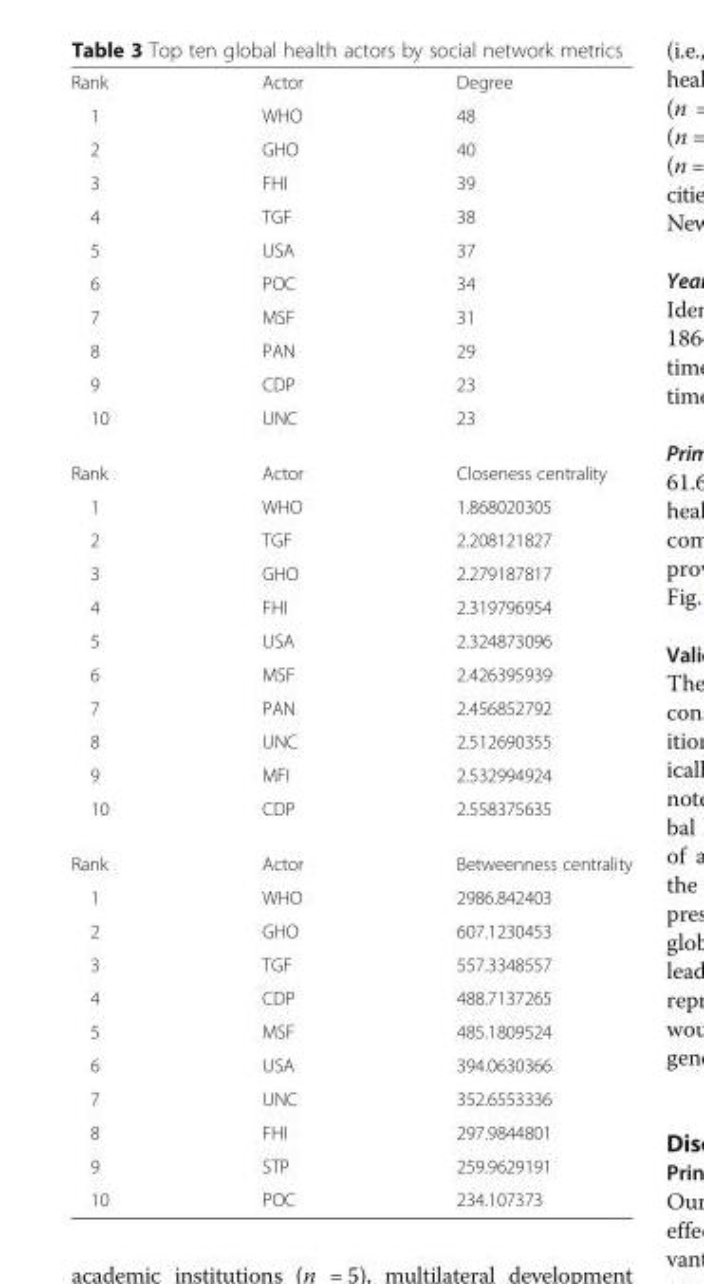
<table><tbody><tr><td>Rank</td><td>Actor</td><td>Degree</td></tr><tr><td>1</td><td>WHO</td><td>48</td></tr><tr><td>2</td><td>GHO</td><td>40</td></tr><tr><td>3</td><td>FHI</td><td>39</td></tr><tr><td>4</td><td>TGF</td><td>38</td></tr><tr><td>5</td><td>USA</td><td>37</td></tr><tr><td>6</td><td>POC</td><td>34</td></tr><tr><td>7</td><td>MSF</td><td>31</td></tr><tr><td>8</td><td>PAN</td><td>29</td></tr><tr><td>9</td><td>CDP</td><td>23</td></tr><tr><td>10</td><td>UNC</td><td>23</td></tr><tr><td>Rank</td><td>Actor</td><td>Closeness centrality</td></tr><tr><td>1</td><td>WHO</td><td>1.868020305</td></tr><tr><td>2</td><td>TGF</td><td>2.208121827</td></tr><tr><td>3</td><td>GHO</td><td>2.279187817</td></tr><tr><td>4</td><td>FHI</td><td>2.319796954</td></tr><tr><td>5</td><td>USA</td><td>2.324873096</td></tr><tr><td>6</td><td>MSF</td><td>2.426395939</td></tr><tr><td>7</td><td>PAN</td><td>2.456852792</td></tr><tr><td>8</td><td>UNC</td><td>2.512690355</td></tr><tr><td>9</td><td>MFI</td><td>2.532994924</td></tr><tr><td>10</td><td>CDP</td><td>2.558375635</td></tr><tr><td>Rank</td><td>Actor</td><td>Betweenness centrality</td></tr><tr><td>1</td><td>WHO</td><td>2986.842403</td></tr><tr><td>2</td><td>GHO</td><td>607.1230453</td></tr><tr><td>3</td><td>TGF</td><td>557.3348557</td></tr><tr><td>4</td><td>CDP</td><td>488.7137265</td></tr><tr><td>5</td><td>MSF</td><td>485.1809524</td></tr><tr><td>6</td><td>USA</td><td>394.0630366</td></tr><tr><td>7</td><td>UNC</td><td>352.6553336</td></tr><tr><td>8</td><td>FHI</td><td>297.9844801</td></tr><tr><td>9</td><td>STP</td><td>259.9629191</td></tr><tr><td>10</td><td>POC</td><td>234.107373</td></tr></tbody></table>